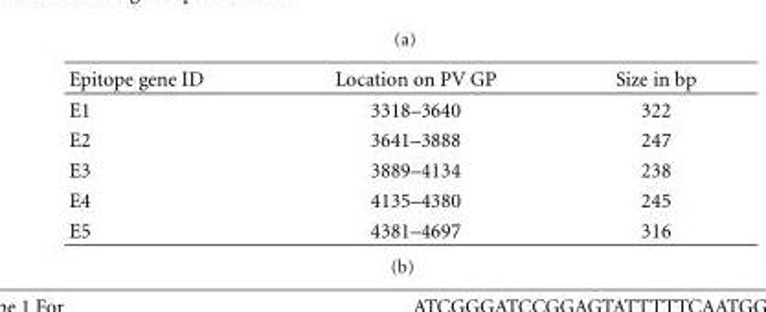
<table><thead><tr><td>Epitope gene ID</td><td>Location on PV GP</td><td>Size in bp</td></tr></thead><tbody><tr><td>E1</td><td>3318–3640</td><td>322</td></tr><tr><td>E2</td><td>3641–3888</td><td>247</td></tr><tr><td>E3</td><td>3889–4134</td><td>238</td></tr><tr><td>E4</td><td>4135–4380</td><td>245</td></tr><tr><td>E5</td><td>4381–4697</td><td>316</td></tr></tbody></table>